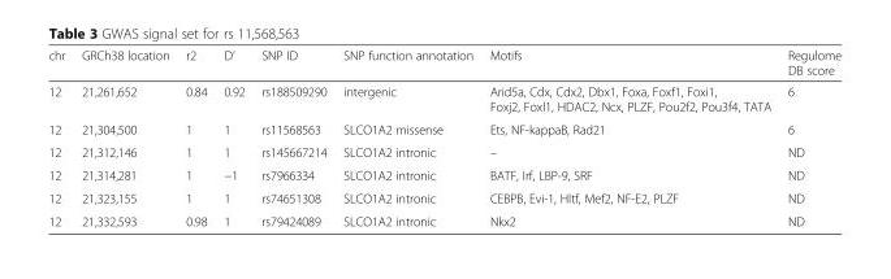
<table><thead><tr><td>chr</td><td>GRCh38 location</td><td>r2</td><td>D’</td><td>SNP ID</td><td>SNP function annotation</td><td>Motifs</td><td>Regulome DB score</td></tr></thead><tbody><tr><td>12</td><td>21,261,652</td><td>0.84</td><td>0.92</td><td>rs188509290</td><td>intergenic</td><td>Arid5a, Cdx, Cdx2, Dbx1, Foxa, Foxf1, Foxi1, Foxj2, Foxl1, HDAC2, Ncx, PLZF, Pou2f2, Pou3f4, TATA</td><td>6</td></tr><tr><td>12</td><td>21,304,500</td><td>1</td><td>1</td><td>rs11568563</td><td>SLCO1A2 missense</td><td>Ets, NF-kappaB, Rad21</td><td>6</td></tr><tr><td>12</td><td>21,312,146</td><td>1</td><td>1</td><td>rs145667214</td><td>SLCO1A2 intronic</td><td>–</td><td>ND</td></tr><tr><td>12</td><td>21,314,281</td><td>1</td><td>−1</td><td>rs7966334</td><td>SLCO1A2 intronic</td><td>BATF, Irf, LBP-9, SRF</td><td>ND</td></tr><tr><td>12</td><td>21,323,155</td><td>1</td><td>1</td><td>rs74651308</td><td>SLCO1A2 intronic</td><td>CEBPB, Evi-1, Hltf, Mef2, NF-E2, PLZF</td><td>ND</td></tr><tr><td>12</td><td>21,332,593</td><td>0.98</td><td>1</td><td>rs79424089</td><td>SLCO1A2 intronic</td><td>Nkx2</td><td>ND</td></tr></tbody></table>